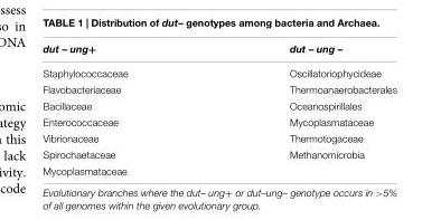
<table><thead><tr><td>dut – ung+</td><td>dut – ung –</td></tr></thead><tbody><tr><td>Staphylococcaceae</td><td>Oscillatoriophycideae</td></tr><tr><td>Flavobacteriaceae</td><td>Thermoanaerobacterales</td></tr><tr><td>Bacillaceae</td><td>Oceanospirillales</td></tr><tr><td>Enterococcaceae</td><td>Mycoplasmataceae</td></tr><tr><td>Vibrionaceae</td><td>Thermotogaceae</td></tr><tr><td>Spirochaetaceae</td><td>Methanomicrobia</td></tr><tr><td>Mycoplasmataceae</td><td></td></tr></tbody></table>